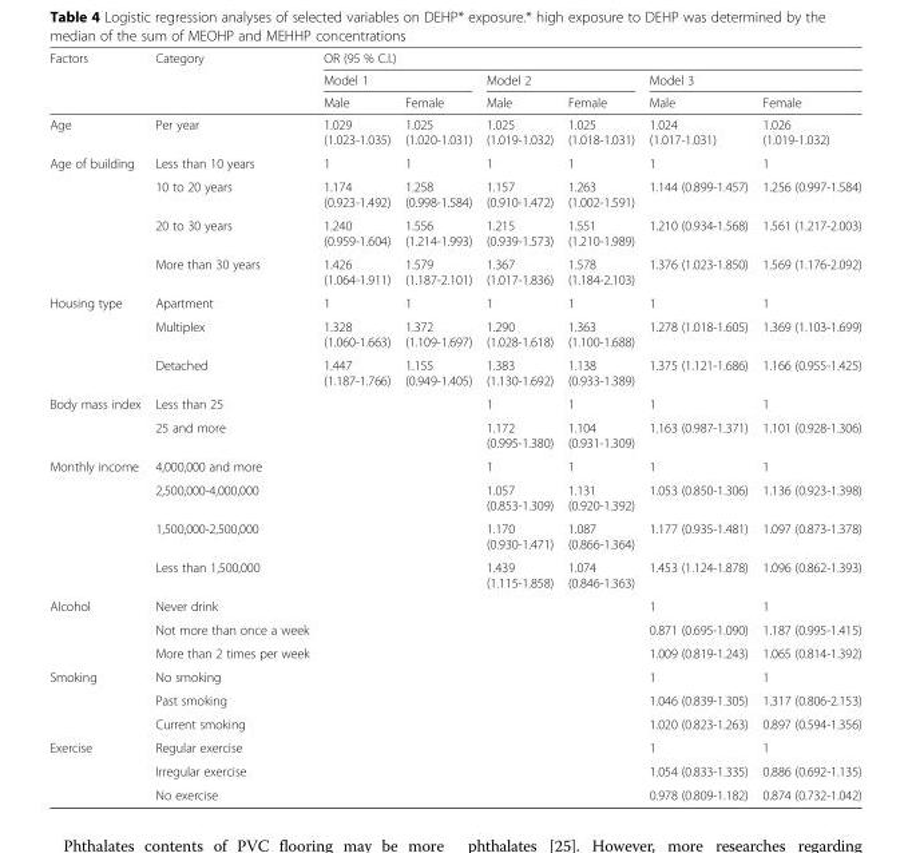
<table><thead><tr><td rowspan="3">Factors</td><td rowspan="3">Category</td><td colspan="6">OR (95 % C.I.)</td></tr><tr><td colspan="2">Model 1</td><td colspan="2">Model 2</td><td colspan="2">Model 3</td></tr><tr><td>Male</td><td>Female</td><td>Male</td><td>Female</td><td>Male</td><td>Female</td></tr></thead><tbody><tr><td>Age</td><td>Per year</td><td>1.029 (1.023-1.035)</td><td>1.025 (1.020-1.031)</td><td>1.025 (1.019-1.032)</td><td>1.025 (1.018-1.031)</td><td>1.024 (1.017-1.031)</td><td>1.026 (1.019-1.032)</td></tr><tr><td rowspan="4">Age of building</td><td>Less than 10 years</td><td>1</td><td>1</td><td>1</td><td>1</td><td>1</td><td>1</td></tr><tr><td>10 to 20 years</td><td>1.174 (0.923-1.492)</td><td>1.258 (0.998-1.584)</td><td>1.157 (0.910-1.472)</td><td>1.263 (1.002-1.591)</td><td>1.144 (0.899-1.457)</td><td>1.256 (0.997-1.584)</td></tr><tr><td>20 to 30 years</td><td>1.240 (0.959-1.604)</td><td>1.556 (1.214-1.993)</td><td>1.215 (0.939-1.573)</td><td>1.551 (1.210-1.989)</td><td>1.210 (0.934-1.568)</td><td>1.561 (1.217-2.003)</td></tr><tr><td>More than 30 years</td><td>1.426 (1.064-1.911)</td><td>1.579 (1.187-2.101)</td><td>1.367 (1.017-1.836)</td><td>1.578 (1.184-2.103)</td><td>1.376 (1.023-1.850)</td><td>1.569 (1.176-2.092)</td></tr><tr><td rowspan="3">Housing type</td><td>Apartment</td><td>1</td><td>1</td><td>1</td><td>1</td><td>1</td><td>1</td></tr><tr><td>Multiplex</td><td>1.328 (1.060-1.663)</td><td>1.372 (1.109-1.697)</td><td>1.290 (1.028-1.618)</td><td>1.363 (1.100-1.688)</td><td>1.278 (1.018-1.605)</td><td>1.369 (1.103-1.699)</td></tr><tr><td>Detached</td><td>1.447 (1.187-1.766)</td><td>1.155 (0.949-1.405)</td><td>1.383 (1.130-1.692)</td><td>1.138 (0.933-1.389)</td><td>1.375 (1.121-1.686)</td><td>1.166 (0.955-1.425)</td></tr><tr><td rowspan="2">Body mass index</td><td>Less than 25</td><td></td><td></td><td>1</td><td>1</td><td>1</td><td>1</td></tr><tr><td>25 and more</td><td></td><td></td><td>1.172 (0.995-1.380)</td><td>1.104 (0.931-1.309)</td><td>1.163 (0.987-1.371)</td><td>1.101 (0.928-1.306)</td></tr><tr><td rowspan="4">Monthly income</td><td>4,000,000 and more</td><td></td><td></td><td>1</td><td>1</td><td>1</td><td>1</td></tr><tr><td>2,500,000-4,000,000</td><td></td><td></td><td>1.057 (0.853-1.309)</td><td>1.131 (0.920-1.392)</td><td>1.053 (0.850-1.306)</td><td>1.136 (0.923-1.398)</td></tr><tr><td>1,500,000-2,500,000</td><td></td><td></td><td>1.170 (0.930-1.471)</td><td>1.087 (0.866-1.364)</td><td>1.177 (0.935-1.481)</td><td>1.097 (0.873-1.378)</td></tr><tr><td>Less than 1,500,000</td><td></td><td></td><td>1.439 (1.115-1.858)</td><td>1.074 (0.846-1.363)</td><td>1.453 (1.124-1.878)</td><td>1.096 (0.862-1.393)</td></tr><tr><td rowspan="3">Alcohol</td><td>Never drink</td><td></td><td></td><td></td><td></td><td>1</td><td>1</td></tr><tr><td>Not more than once a week</td><td></td><td></td><td></td><td></td><td>0.871 (0.695-1.090)</td><td>1.187 (0.995-1.415)</td></tr><tr><td>More than 2 times per week</td><td></td><td></td><td></td><td></td><td>1.009 (0.819-1.243)</td><td>1.065 (0.814-1.392)</td></tr><tr><td rowspan="3">Smoking</td><td>No smoking</td><td></td><td></td><td></td><td></td><td>1</td><td>1</td></tr><tr><td>Past smoking</td><td></td><td></td><td></td><td></td><td>1.046 (0.839-1.305)</td><td>1.317 (0.806-2.153)</td></tr><tr><td>Current smoking</td><td></td><td></td><td></td><td></td><td>1.020 (0.823-1.263)</td><td>0.897 (0.594-1.356)</td></tr><tr><td rowspan="3">Exercise</td><td>Regular exercise</td><td></td><td></td><td></td><td></td><td>1</td><td>1</td></tr><tr><td>Irregular exercise</td><td></td><td></td><td></td><td></td><td>1.054 (0.833-1.335)</td><td>0.886 (0.692-1.135)</td></tr><tr><td>No exercise</td><td></td><td></td><td></td><td></td><td>0.978 (0.809-1.182)</td><td>0.874 (0.732-1.042)</td></tr></tbody></table>